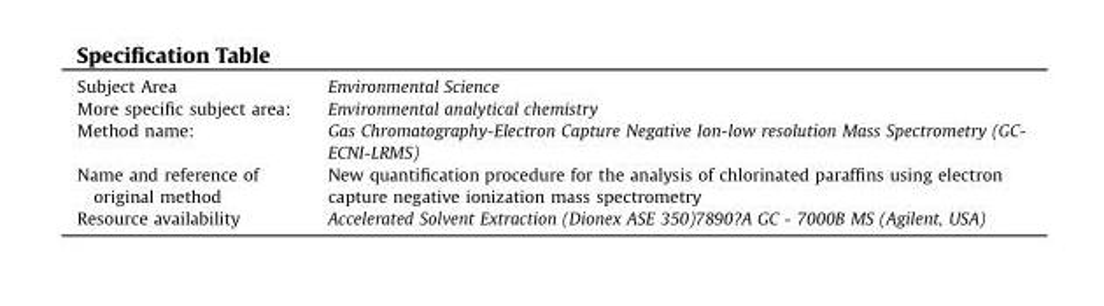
<table><tbody><tr><td>Subject Area</td><td>Environmental Science</td></tr><tr><td>More specific subject area:</td><td>Environmental analytical chemistry</td></tr><tr><td>Method name:</td><td>Gas Chromatography-Electron Capture Negative Ion-low resolution Mass Spectrometry (GC- ECNI-LRMS)</td></tr><tr><td>Name and reference of original method</td><td>New quantification procedure for the analysis of chlorinated paraffins using electron capture negative ionization mass spectrometry</td></tr><tr><td>Resource availability</td><td>Accelerated Solvent Extraction (Dionex ASE 350)7890?A GC - 7000B MS (Agilent, USA)</td></tr></tbody></table>